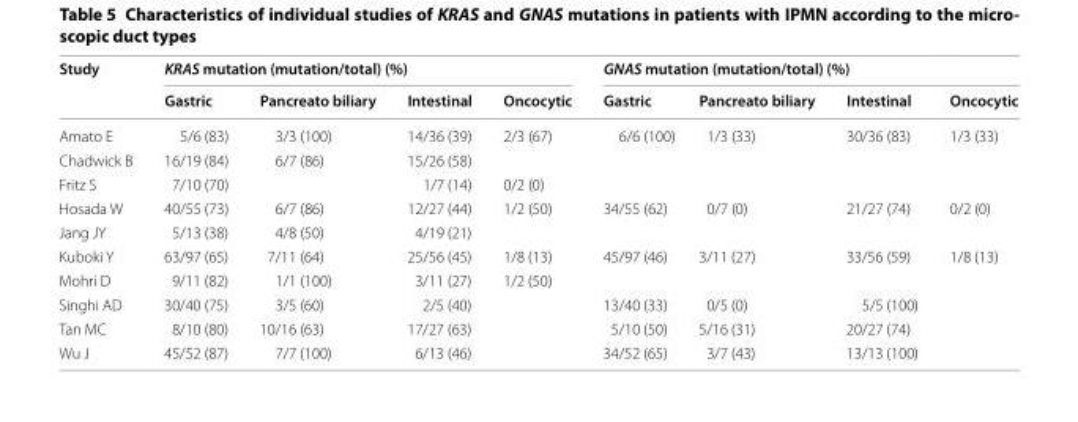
<table><thead><tr><td rowspan="2">Study</td><td colspan="4">KRAS mutation (mutation/total) (%)</td><td colspan="4">GNAS mutation (mutation/total) (%)</td></tr><tr><td>Gastric</td><td>Pancreato biliary</td><td>Intestinal</td><td>Oncocytic</td><td>Gastric</td><td>Pancreato biliary</td><td>Intestinal</td><td>Oncocytic</td></tr></thead><tbody><tr><td>Amato E</td><td>5/6 (83)</td><td>3/3 (100)</td><td>14/36 (39)</td><td>2/3 (67)</td><td>6/6 (100)</td><td>1/3 (33)</td><td>30/36 (83)</td><td>1/3 (33)</td></tr><tr><td>Chadwick B</td><td>16/19 (84)</td><td>6/7 (86)</td><td>15/26 (58)</td><td></td><td></td><td></td><td></td><td></td></tr><tr><td>Fritz S</td><td>7/10 (70)</td><td></td><td>1/7 (14)</td><td>0/2 (0)</td><td></td><td></td><td></td><td></td></tr><tr><td>Hosada W</td><td>40/55 (73)</td><td>6/7 (86)</td><td>12/27 (44)</td><td>1/2 (50)</td><td>34/55 (62)</td><td>0/7 (0)</td><td>21/27 (74)</td><td>0/2 (0)</td></tr><tr><td>Jang JY</td><td>5/13 (38)</td><td>4/8 (50)</td><td>4/19 (21)</td><td></td><td></td><td></td><td></td><td></td></tr><tr><td>Kuboki Y</td><td>63/97 (65)</td><td>7/11 (64)</td><td>25/56 (45)</td><td>1/8 (13)</td><td>45/97 (46)</td><td>3/11 (27)</td><td>33/56 (59)</td><td>1/8 (13)</td></tr><tr><td>Mohri D</td><td>9/11 (82)</td><td>1/1 (100)</td><td>3/11 (27)</td><td>1/2 (50)</td><td></td><td></td><td></td><td></td></tr><tr><td>Singhi AD</td><td>30/40 (75)</td><td>3/5 (60)</td><td>2/5 (40)</td><td></td><td>13/40 (33)</td><td>0/5 (0)</td><td>5/5 (100)</td><td></td></tr><tr><td>Tan MC</td><td>8/10 (80)</td><td>10/16 (63)</td><td>17/27 (63)</td><td></td><td>5/10 (50)</td><td>5/16 (31)</td><td>20/27 (74)</td><td></td></tr><tr><td>Wu J</td><td>45/52 (87)</td><td>7/7 (100)</td><td>6/13 (46)</td><td></td><td>34/52 (65)</td><td>3/7 (43)</td><td>13/13 (100)</td><td></td></tr></tbody></table>